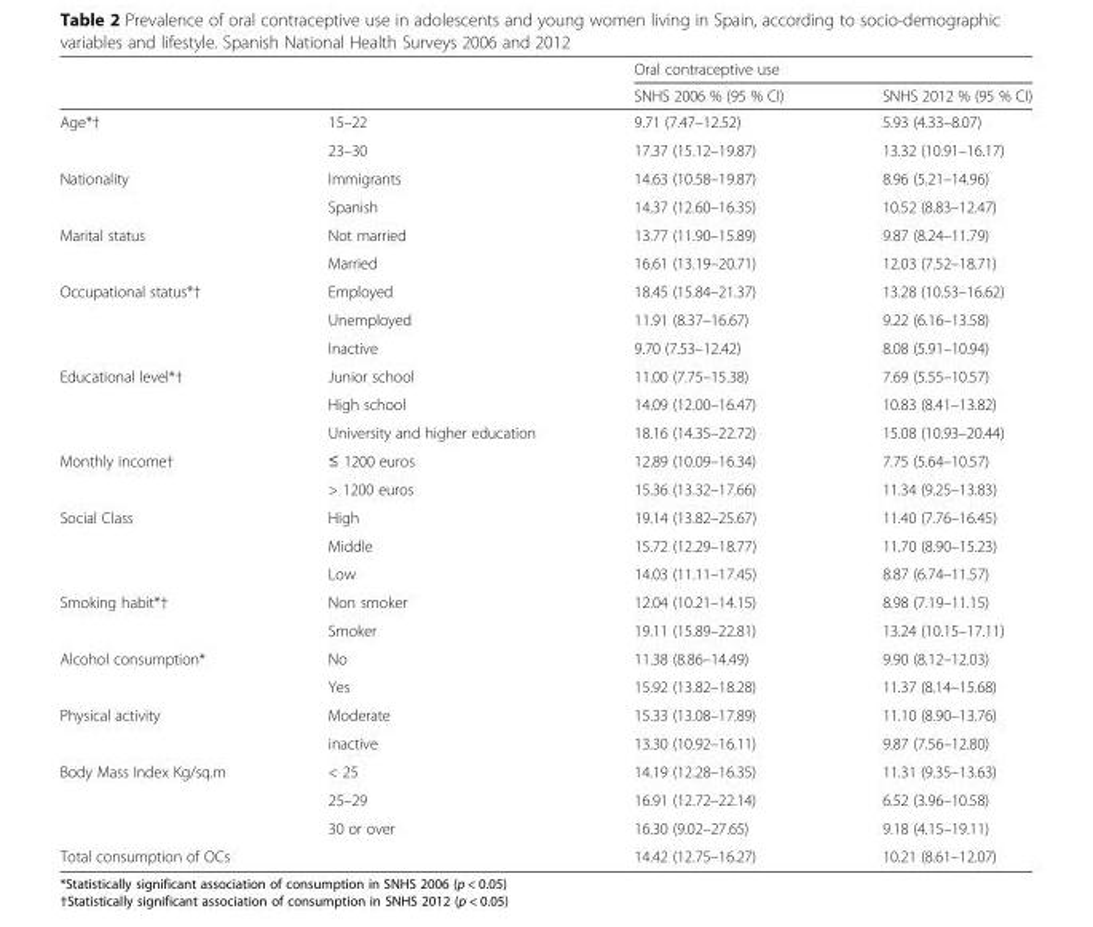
<table><thead><tr><td rowspan="2"></td><td rowspan="2"></td><td colspan="2">Oral contraceptive use</td></tr><tr><td>SNHS 2006 % (95 % CI)</td><td>SNHS 2012 % (95 % CI)</td></tr></thead><tbody><tr><td rowspan="2">Age*†</td><td>15–22</td><td>9.71 (7.47–12.52)</td><td>5.93 (4.33–8.07)</td></tr><tr><td>23–30</td><td>17.37 (15.12–19.87)</td><td>13.32 (10.91–16.17)</td></tr><tr><td rowspan="2">Nationality</td><td>Immigrants</td><td>14.63 (10.58–19.87)</td><td>8.96 (5.21–14.96)</td></tr><tr><td>Spanish</td><td>14.37 (12.60–16.35)</td><td>10.52 (8.83–12.47)</td></tr><tr><td rowspan="2">Marital status</td><td>Not married</td><td>13.77 (11.90–15.89)</td><td>9.87 (8.24–11.79)</td></tr><tr><td>Married</td><td>16.61 (13.19–20.71)</td><td>12.03 (7.52–18.71)</td></tr><tr><td rowspan="3">Occupational status*†</td><td>Employed</td><td>18.45 (15.84–21.37)</td><td>13.28 (10.53–16.62)</td></tr><tr><td>Unemployed</td><td>11.91 (8.37–16.67)</td><td>9.22 (6.16–13.58)</td></tr><tr><td>Inactive</td><td>9.70 (7.53–12.42)</td><td>8.08 (5.91–10.94)</td></tr><tr><td rowspan="3">Educational level*†</td><td>Junior school</td><td>11.00 (7.75–15.38)</td><td>7.69 (5.55–10.57)</td></tr><tr><td>High school</td><td>14.09 (12.00–16.47)</td><td>10.83 (8.41–13.82)</td></tr><tr><td>University and higher education</td><td>18.16 (14.35–22.72)</td><td>15.08 (10.93–20.44)</td></tr><tr><td rowspan="2">Monthly income†</td><td>≤ 1200 euros</td><td>12.89 (10.09–16.34)</td><td>7.75 (5.64–10.57)</td></tr><tr><td>&gt; 1200 euros</td><td>15.36 (13.32–17.66)</td><td>11.34 (9.25–13.83)</td></tr><tr><td rowspan="3">Social Class</td><td>High</td><td>19.14 (13.82–25.67)</td><td>11.40 (7.76–16.45)</td></tr><tr><td>Middle</td><td>15.72 (12.29–18.77)</td><td>11.70 (8.90–15.23)</td></tr><tr><td>Low</td><td>14.03 (11.11–17.45)</td><td>8.87 (6.74–11.57)</td></tr><tr><td rowspan="2">Smoking habit*†</td><td>Non smoker</td><td>12.04 (10.21–14.15)</td><td>8.98 (7.19–11.15)</td></tr><tr><td>Smoker</td><td>19.11 (15.89–22.81)</td><td>13.24 (10.15–17.11)</td></tr><tr><td rowspan="2">Alcohol consumption*</td><td>No</td><td>11.38 (8.86–14.49)</td><td>9.90 (8.12–12.03)</td></tr><tr><td>Yes</td><td>15.92 (13.82–18.28)</td><td>11.37 (8.14–15.68)</td></tr><tr><td rowspan="2">Physical activity</td><td>Moderate</td><td>15.33 (13.08–17.89)</td><td>11.10 (8.90–13.76)</td></tr><tr><td>inactive</td><td>13.30 (10.92–16.11)</td><td>9.87 (7.56–12.80)</td></tr><tr><td rowspan="3">Body Mass Index Kg/sq.m</td><td>&lt; 25</td><td>14.19 (12.28–16.35)</td><td>11.31 (9.35–13.63)</td></tr><tr><td>25–29</td><td>16.91 (12.72–22.14)</td><td>6.52 (3.96–10.58)</td></tr><tr><td>30 or over</td><td>16.30 (9.02–27.65)</td><td>9.18 (4.15–19.11)</td></tr><tr><td>Total consumption of OCs</td><td></td><td>14.42 (12.75–16.27)</td><td>10.21 (8.61–12.07)</td></tr></tbody></table>